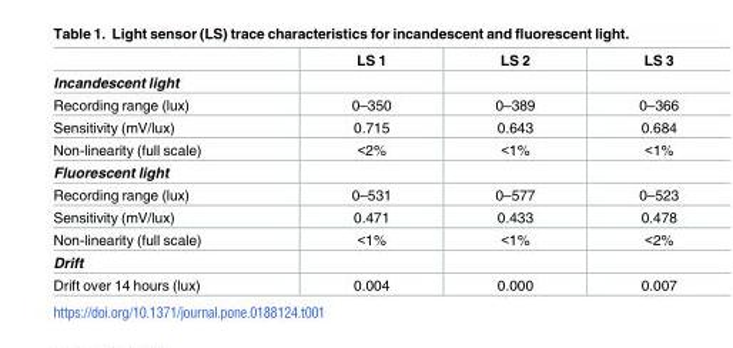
<table><thead><tr><td></td><td>LS 1</td><td>LS 2</td><td>LS 3</td></tr></thead><tbody><tr><td colspan="4">Incandescent light</td></tr><tr><td>Recording range (lux)</td><td>0–350</td><td>0–389</td><td>0–366</td></tr><tr><td>Sensitivity (mV/lux)</td><td>0.715</td><td>0.643</td><td>0.684</td></tr><tr><td>Non-linearity (full scale)</td><td>&lt;2%</td><td>&lt;1%</td><td>&lt;1%</td></tr><tr><td colspan="4">Fluorescent light</td></tr><tr><td>Recording range (lux)</td><td>0–531</td><td>0–577</td><td>0–523</td></tr><tr><td>Sensitivity (mV/lux)</td><td>0.471</td><td>0.433</td><td>0.478</td></tr><tr><td>Non-linearity (full scale)</td><td>&lt;1%</td><td>&lt;1%</td><td>&lt;2%</td></tr><tr><td colspan="4">Drift</td></tr><tr><td>Drift over 14 hours (lux)</td><td>0.004</td><td>0.000</td><td>0.007</td></tr></tbody></table>